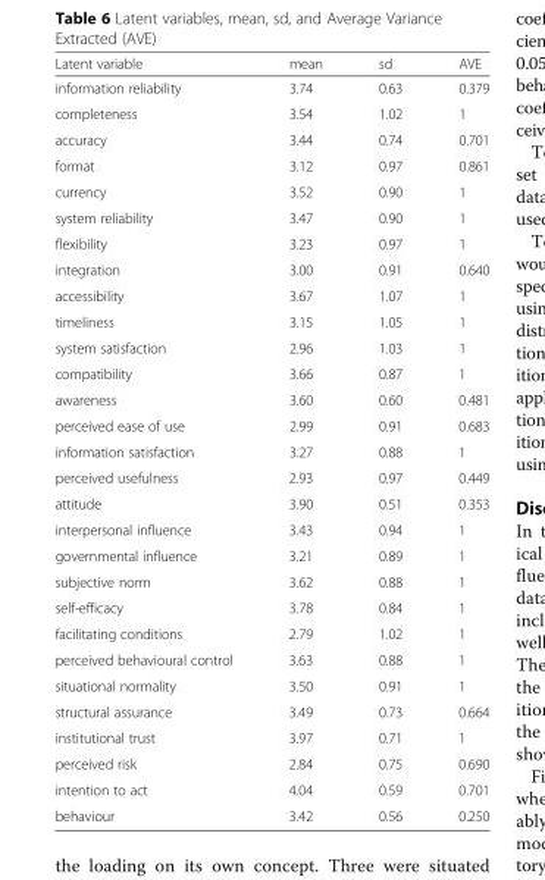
<table><thead><tr><td>Latent variable</td><td>mean</td><td>sd</td><td>AVE</td></tr></thead><tbody><tr><td>information reliability</td><td>3.74</td><td>0.63</td><td>0.379</td></tr><tr><td>completeness</td><td>3.54</td><td>1.02</td><td>1</td></tr><tr><td>accuracy</td><td>3.44</td><td>0.74</td><td>0.701</td></tr><tr><td>format</td><td>3.12</td><td>0.97</td><td>0.861</td></tr><tr><td>currency</td><td>3.52</td><td>0.90</td><td>1</td></tr><tr><td>system reliability</td><td>3.47</td><td>0.90</td><td>1</td></tr><tr><td>flexibility</td><td>3.23</td><td>0.97</td><td>1</td></tr><tr><td>integration</td><td>3.00</td><td>0.91</td><td>0.640</td></tr><tr><td>accessibility</td><td>3.67</td><td>1.07</td><td>1</td></tr><tr><td>timeliness</td><td>3.15</td><td>1.05</td><td>1</td></tr><tr><td>system satisfaction</td><td>2.96</td><td>1.03</td><td>1</td></tr><tr><td>compatibility</td><td>3.66</td><td>0.87</td><td>1</td></tr><tr><td>awareness</td><td>3.60</td><td>0.60</td><td>0.481</td></tr><tr><td>perceived ease of use</td><td>2.99</td><td>0.91</td><td>0.683</td></tr><tr><td>information satisfaction</td><td>3.27</td><td>0.88</td><td>1</td></tr><tr><td>perceived usefulness</td><td>2.93</td><td>0.97</td><td>0.449</td></tr><tr><td>attitude</td><td>3.90</td><td>0.51</td><td>0.353</td></tr><tr><td>interpersonal influence</td><td>3.43</td><td>0.94</td><td>1</td></tr><tr><td>governmental influence</td><td>3.21</td><td>0.89</td><td>1</td></tr><tr><td>subjective norm</td><td>3.62</td><td>0.88</td><td>1</td></tr><tr><td>self-efficacy</td><td>3.78</td><td>0.84</td><td>1</td></tr><tr><td>facilitating conditions</td><td>2.79</td><td>1.02</td><td>1</td></tr><tr><td>perceived behavioural control</td><td>3.63</td><td>0.88</td><td>1</td></tr><tr><td>situational normality</td><td>3.50</td><td>0.91</td><td>1</td></tr><tr><td>structural assurance</td><td>3.49</td><td>0.73</td><td>0.664</td></tr><tr><td>institutional trust</td><td>3.97</td><td>0.71</td><td>1</td></tr><tr><td>perceived risk</td><td>2.84</td><td>0.75</td><td>0.690</td></tr><tr><td>intention to act</td><td>4.04</td><td>0.59</td><td>0.701</td></tr><tr><td>behaviour</td><td>3.42</td><td>0.56</td><td>0.250</td></tr></tbody></table>